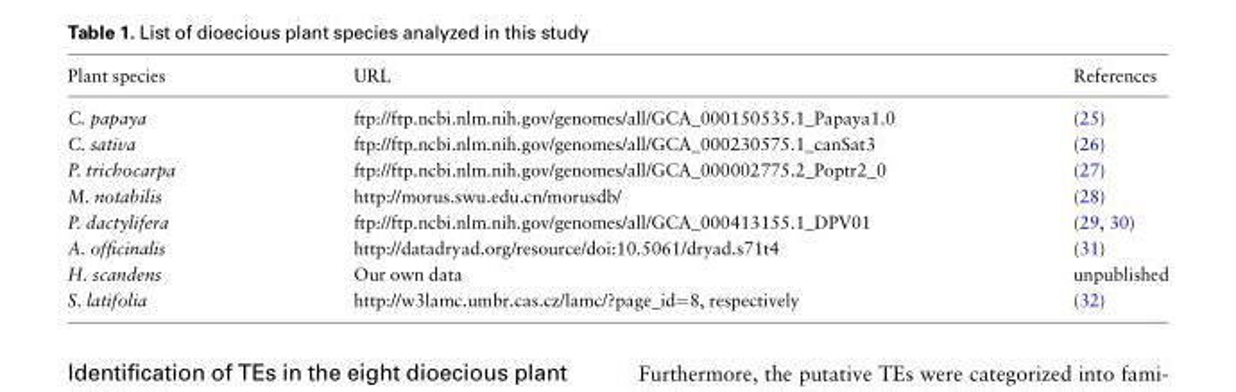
<table><thead><tr><td>Plant species</td><td>URL</td><td>References</td></tr></thead><tbody><tr><td>C. papaya</td><td>ftp://ftp.ncbi.nlm.nih.gov/genomes/all/GCA_000150535.1_Papaya1.0</td><td>(25)</td></tr><tr><td>C. sativa</td><td>ftp://ftp.ncbi.nlm.nih.gov/genomes/all/GCA_000230575.1_canSat3</td><td>(26)</td></tr><tr><td>P. trichocarpa</td><td>ftp://ftp.ncbi.nlm.nih.gov/genomes/all/GCA_000002775.2_Poptr2_0</td><td>(27)</td></tr><tr><td>M. notabilis</td><td>http://morus.swu.edu.cn/morusdb/</td><td>(28)</td></tr><tr><td>P. dactylifera</td><td>ftp://ftp.ncbi.nlm.nih.gov/genomes/all/GCA_000413155.1_DPV01</td><td>(29, 30)</td></tr><tr><td>A. officinalis</td><td>http://datadryad.org/resource/doi:10.5061/dryad.s71t4</td><td>(31)</td></tr><tr><td>H. scandens</td><td>Our own data</td><td>unpublished</td></tr><tr><td>S. latifolia</td><td>http://w3lamc.umbr.cas.cz/lamc/?page_id=8, respectively</td><td>(32)</td></tr></tbody></table>